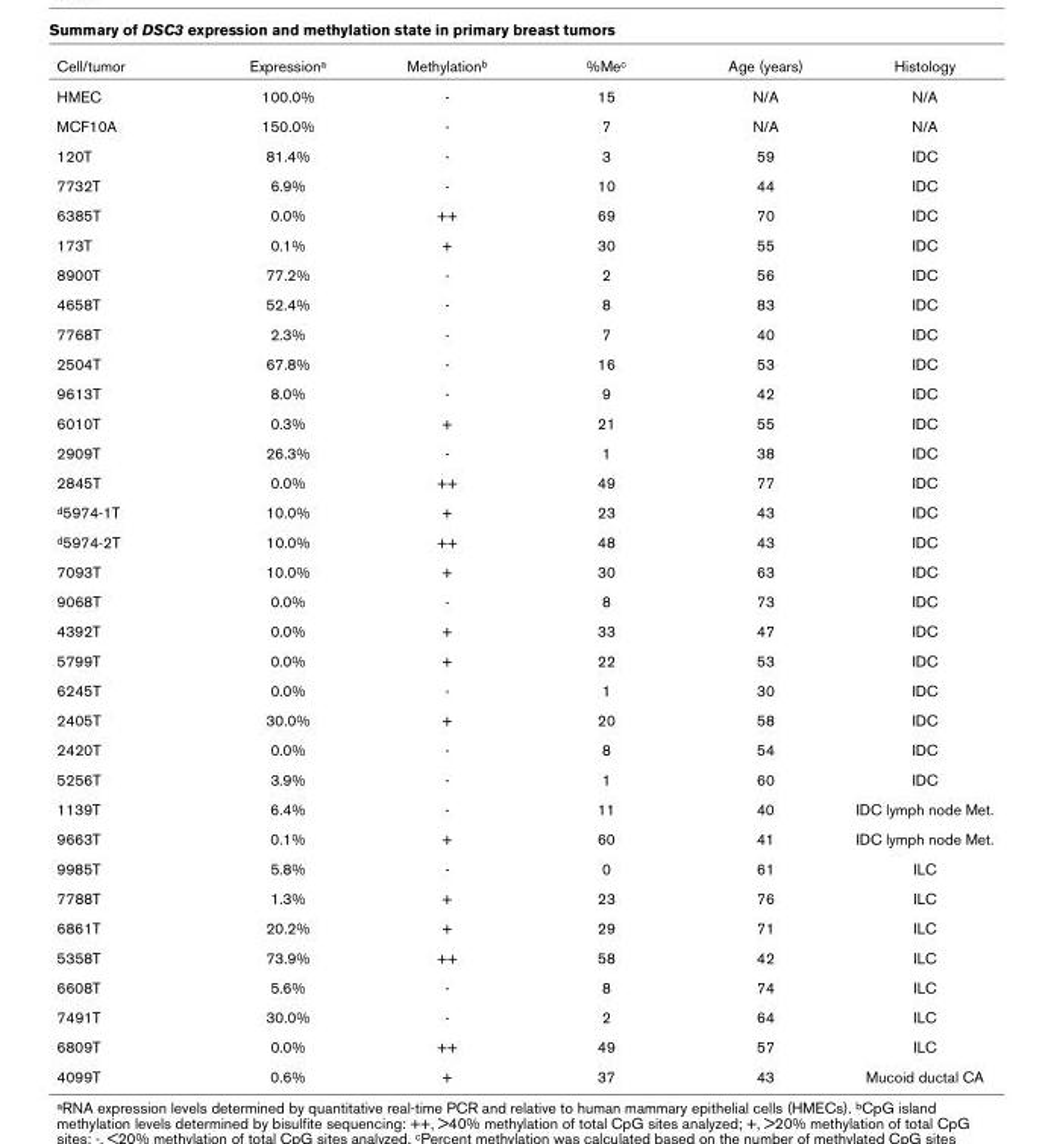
<table><thead><tr><td>Cell/tumor</td><td>Expressiona</td><td>Methylationb</td><td>%Mec</td><td>Age (years)</td><td>Histology</td></tr></thead><tbody><tr><td>HMEC</td><td>100.0%</td><td>-</td><td>15</td><td>N/A</td><td>N/A</td></tr><tr><td>MCF10A</td><td>150.0%</td><td>-</td><td>7</td><td>N/A</td><td>N/A</td></tr><tr><td>120T</td><td>81.4%</td><td>-</td><td>3</td><td>59</td><td>IDC</td></tr><tr><td>7732T</td><td>6.9%</td><td>-</td><td>10</td><td>44</td><td>IDC</td></tr><tr><td>6385T</td><td>0.0%</td><td>++</td><td>69</td><td>70</td><td>IDC</td></tr><tr><td>173T</td><td>0.1%</td><td>+</td><td>30</td><td>55</td><td>IDC</td></tr><tr><td>8900T</td><td>77.2%</td><td>-</td><td>2</td><td>56</td><td>IDC</td></tr><tr><td>4658T</td><td>52.4%</td><td>-</td><td>8</td><td>83</td><td>IDC</td></tr><tr><td>7768T</td><td>2.3%</td><td>-</td><td>7</td><td>40</td><td>IDC</td></tr><tr><td>2504T</td><td>67.8%</td><td>-</td><td>16</td><td>53</td><td>IDC</td></tr><tr><td>9613T</td><td>8.0%</td><td>-</td><td>9</td><td>42</td><td>IDC</td></tr><tr><td>6010T</td><td>0.3%</td><td>+</td><td>21</td><td>55</td><td>IDC</td></tr><tr><td>2909T</td><td>26.3%</td><td>-</td><td>1</td><td>38</td><td>IDC</td></tr><tr><td>2845T</td><td>0.0%</td><td>++</td><td>49</td><td>77</td><td>IDC</td></tr><tr><td>d5974-1T</td><td>10.0%</td><td>+</td><td>23</td><td>43</td><td>IDC</td></tr><tr><td>d5974-2T</td><td>10.0%</td><td>++</td><td>48</td><td>43</td><td>IDC</td></tr><tr><td>7093T</td><td>10.0%</td><td>+</td><td>30</td><td>63</td><td>IDC</td></tr><tr><td>9068T</td><td>0.0%</td><td>-</td><td>8</td><td>73</td><td>IDC</td></tr><tr><td>4392T</td><td>0.0%</td><td>+</td><td>33</td><td>47</td><td>IDC</td></tr><tr><td>5799T</td><td>0.0%</td><td>+</td><td>22</td><td>53</td><td>IDC</td></tr><tr><td>6245T</td><td>0.0%</td><td>-</td><td>1</td><td>30</td><td>IDC</td></tr><tr><td>2405T</td><td>30.0%</td><td>+</td><td>20</td><td>58</td><td>IDC</td></tr><tr><td>2420T</td><td>0.0%</td><td>-</td><td>8</td><td>54</td><td>IDC</td></tr><tr><td>5256T</td><td>3.9%</td><td>-</td><td>1</td><td>60</td><td>IDC</td></tr><tr><td>1139T</td><td>6.4%</td><td>-</td><td>11</td><td>40</td><td>IDC lymph node Met.</td></tr><tr><td>9663T</td><td>0.1%</td><td>+</td><td>60</td><td>41</td><td>IDC lymph node Met.</td></tr><tr><td>9985T</td><td>5.8%</td><td>-</td><td>0</td><td>61</td><td>ILC</td></tr><tr><td>7788T</td><td>1.3%</td><td>+</td><td>23</td><td>76</td><td>ILC</td></tr><tr><td>6861T</td><td>20.2%</td><td>+</td><td>29</td><td>71</td><td>ILC</td></tr><tr><td>5358T</td><td>73.9%</td><td>++</td><td>58</td><td>42</td><td>ILC</td></tr><tr><td>6608T</td><td>5.6%</td><td>-</td><td>8</td><td>74</td><td>ILC</td></tr><tr><td>7491T</td><td>30.0%</td><td>-</td><td>2</td><td>64</td><td>ILC</td></tr><tr><td>6809T</td><td>0.0%</td><td>++</td><td>49</td><td>57</td><td>ILC</td></tr><tr><td>4099T</td><td>0.6%</td><td>+</td><td>37</td><td>43</td><td>Mucoid ductal CA</td></tr></tbody></table>